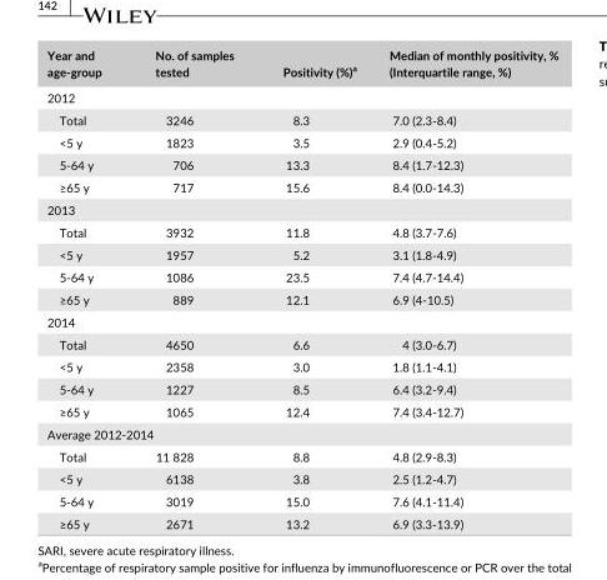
<table><thead><tr><td>Year and age- group</td><td>No. of samples tested</td><td>Positivity (%)<sup>a</sup></td><td>Median of monthly positivity, % (Interquartile range, %)</td></tr></thead><tbody><tr><td colspan="4">2012</td></tr><tr><td>Total</td><td>3246</td><td>8.3</td><td>7.0 (2.3- 8.4)</td></tr><tr><td>&lt;5 y</td><td>1823</td><td>3.5</td><td>2.9 (0.4- 5.2)</td></tr><tr><td>5- 64 y</td><td>706</td><td>13.3</td><td>8.4 (1.7- 12.3)</td></tr><tr><td>≥65 y</td><td>717</td><td>15.6</td><td>8.4 (0.0- 14.3)</td></tr><tr><td colspan="4">2013</td></tr><tr><td>Total</td><td>3932</td><td>11.8</td><td>4.8 (3.7- 7.6)</td></tr><tr><td>&lt;5 y</td><td>1957</td><td>5.2</td><td>3.1 (1.8- 4.9)</td></tr><tr><td>5- 64 y</td><td>1086</td><td>23.5</td><td>7.4 (4.7- 14.4)</td></tr><tr><td>≥65 y</td><td>889</td><td>12.1</td><td>6.9 (4- 10.5)</td></tr><tr><td colspan="4">2014</td></tr><tr><td>Total</td><td>4650</td><td>6.6</td><td>4 (3.0- 6.7)</td></tr><tr><td>&lt;5 y</td><td>2358</td><td>3.0</td><td>1.8 (1.1- 4.1)</td></tr><tr><td>5- 64 y</td><td>1227</td><td>8.5</td><td>6.4 (3.2- 9.4)</td></tr><tr><td>≥65 y</td><td>1065</td><td>12.4</td><td>7.4 (3.4- 12.7)</td></tr><tr><td colspan="4">Average 2012- 2014</td></tr><tr><td>Total</td><td>11 828</td><td>8.8</td><td>4.8 (2.9- 8.3)</td></tr><tr><td>&lt;5 y</td><td>6138</td><td>3.8</td><td>2.5 (1.2- 4.7)</td></tr><tr><td>5- 64 y</td><td>3019</td><td>15.0</td><td>7.6 (4.1- 11.4)</td></tr><tr><td>≥65 y</td><td>2671</td><td>13.2</td><td>6.9 (3.3- 13.9)</td></tr></tbody></table>